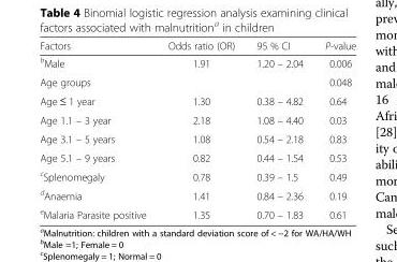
<table><thead><tr><td>Factors</td><td>Odds ratio (OR)</td><td>95 % CI</td><td>P-value</td></tr></thead><tbody><tr><td><sup>b</sup>Male</td><td>1.91</td><td>1.20 – 2.04</td><td>0.006</td></tr><tr><td>Age groups</td><td></td><td></td><td>0.048</td></tr><tr><td>Age ≤ 1 year</td><td>1.30</td><td>0.38 – 4.82</td><td>0.64</td></tr><tr><td>Age 1.1 – 3 year</td><td>2.18</td><td>1.08 – 4.40</td><td>0.03</td></tr><tr><td>Age 3.1 – 5 years</td><td>1.08</td><td>0.54 – 2.18</td><td>0.83</td></tr><tr><td>Age 5.1 – 9 years</td><td>0.82</td><td>0.44 – 1.54</td><td>0.53</td></tr><tr><td><sup>c</sup>Splenomegaly</td><td>0.78</td><td>0.39 – 1.5</td><td>0.49</td></tr><tr><td><sup>d</sup>Anaemia</td><td>1.41</td><td>0.84 – 2.36</td><td>0.19</td></tr><tr><td><sup>e</sup>Malaria Parasite positive</td><td>1.35</td><td>0.70 – 1.83</td><td>0.61</td></tr></tbody></table>